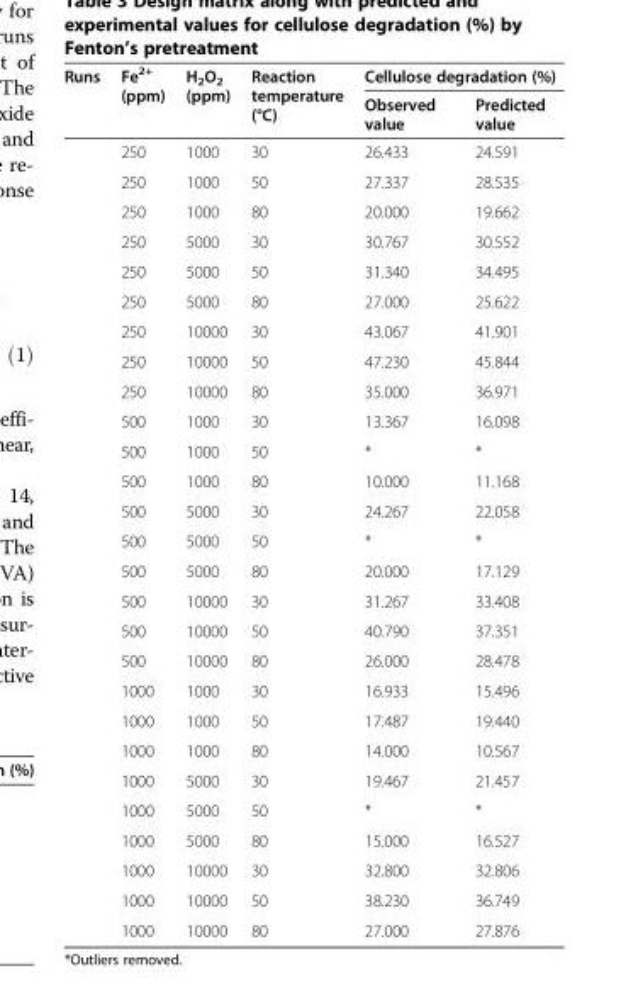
<table><thead><tr><td rowspan="2">Runs</td><td rowspan="2">Fe<sup>2+</sup> (ppm)</td><td rowspan="2">H<sub>2</sub>O<sub>2</sub> (ppm)</td><td rowspan="2">Reaction temperature (°C)</td><td colspan="2">Cellulose degradation (%)</td></tr><tr><td>Observed value</td><td>Predicted value</td></tr></thead><tbody><tr><td></td><td>250</td><td>1000</td><td>30</td><td>26.433</td><td>24.591</td></tr><tr><td></td><td>250</td><td>1000</td><td>50</td><td>27.337</td><td>28.535</td></tr><tr><td></td><td>250</td><td>1000</td><td>80</td><td>20.000</td><td>19.662</td></tr><tr><td></td><td>250</td><td>5000</td><td>30</td><td>30.767</td><td>30.552</td></tr><tr><td></td><td>250</td><td>5000</td><td>50</td><td>31.340</td><td>34.495</td></tr><tr><td></td><td>250</td><td>5000</td><td>80</td><td>27.000</td><td>25.622</td></tr><tr><td></td><td>250</td><td>10000</td><td>30</td><td>43.067</td><td>41.901</td></tr><tr><td></td><td>250</td><td>10000</td><td>50</td><td>47.230</td><td>45.844</td></tr><tr><td></td><td>250</td><td>10000</td><td>80</td><td>35.000</td><td>36.971</td></tr><tr><td></td><td>500</td><td>1000</td><td>30</td><td>13.367</td><td>16.098</td></tr><tr><td></td><td>500</td><td>1000</td><td>50</td><td>*</td><td>*</td></tr><tr><td></td><td>500</td><td>1000</td><td>80</td><td>10.000</td><td>11.168</td></tr><tr><td></td><td>500</td><td>5000</td><td>30</td><td>24.267</td><td>22.058</td></tr><tr><td></td><td>500</td><td>5000</td><td>50</td><td>*</td><td>*</td></tr><tr><td></td><td>500</td><td>5000</td><td>80</td><td>20.000</td><td>17.129</td></tr><tr><td></td><td>500</td><td>10000</td><td>30</td><td>31.267</td><td>33.408</td></tr><tr><td></td><td>500</td><td>10000</td><td>50</td><td>40.790</td><td>37.351</td></tr><tr><td></td><td>500</td><td>10000</td><td>80</td><td>26.000</td><td>28.478</td></tr><tr><td></td><td>1000</td><td>1000</td><td>30</td><td>16.933</td><td>15.496</td></tr><tr><td></td><td>1000</td><td>1000</td><td>50</td><td>17.487</td><td>19.440</td></tr><tr><td></td><td>1000</td><td>1000</td><td>80</td><td>14.000</td><td>10.567</td></tr><tr><td></td><td>1000</td><td>5000</td><td>30</td><td>19.467</td><td>21.457</td></tr><tr><td></td><td>1000</td><td>5000</td><td>50</td><td>*</td><td>*</td></tr><tr><td></td><td>1000</td><td>5000</td><td>80</td><td>15.000</td><td>16.527</td></tr><tr><td></td><td>1000</td><td>10000</td><td>30</td><td>32.800</td><td>32.806</td></tr><tr><td></td><td>1000</td><td>10000</td><td>50</td><td>38.230</td><td>36.749</td></tr><tr><td></td><td>1000</td><td>10000</td><td>80</td><td>27.000</td><td>27.876</td></tr></tbody></table>